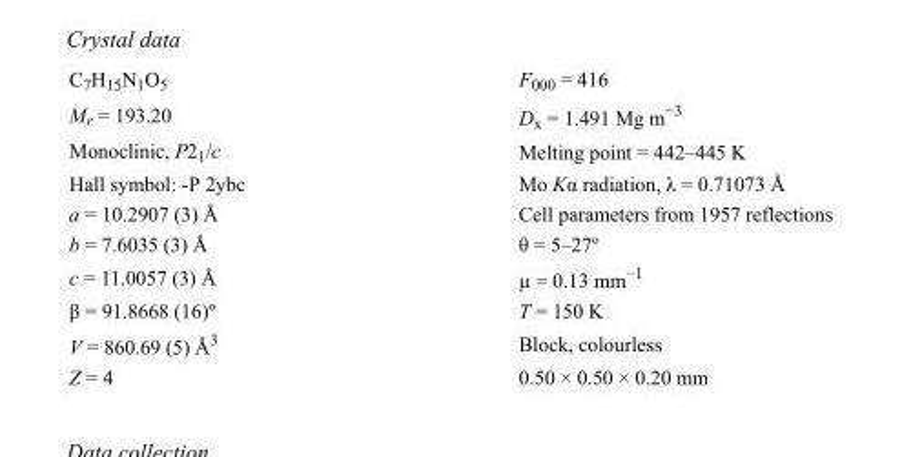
<table><tbody><tr><td>C7H15N1O5</td><td>F000 = 416</td></tr><tr><td>M<sub>r</sub> = 193.20</td><td>D<sub>x</sub> = 1.491 Mg m<sup>−3</sup></td></tr><tr><td>Monoclinic, P2<sub>1</sub>/c</td><td>Melting point = 442–445 K</td></tr><tr><td>Hall symbol: -P 2ybc</td><td>Mo Kα radiation, λ = 0.71073 Å</td></tr><tr><td>a = 10.2907 (3) Å</td><td>Cell parameters from 1957 reflections</td></tr><tr><td>b = 7.6035 (3) Å</td><td>θ = 5–27º</td></tr><tr><td>c = 11.0057 (3) Å</td><td>µ = 0.13 mm<sup>−1</sup></td></tr><tr><td>β = 91.8668 (16)º</td><td>T = 150 K</td></tr><tr><td>V = 860.69 (5) Å<sup>3</sup></td><td>Block, colourless</td></tr><tr><td>Z = 4</td><td>0.50 × 0.50 × 0.20 mm</td></tr></tbody></table>